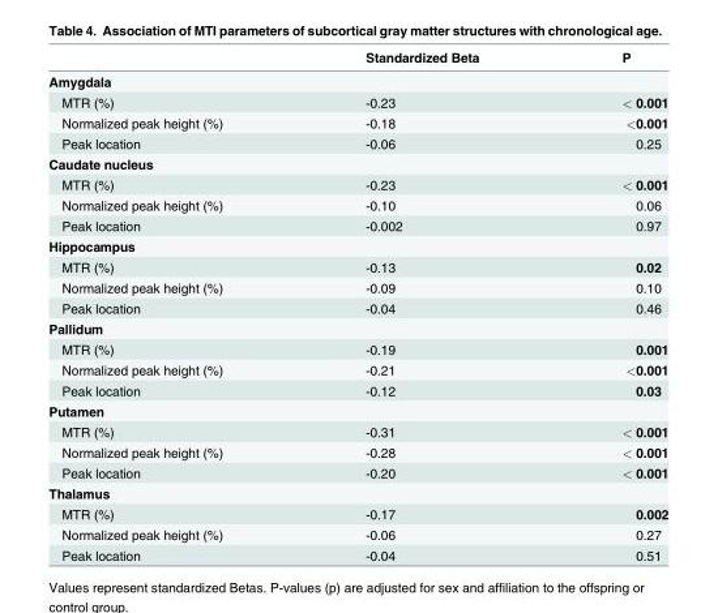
<table><thead><tr><td></td><td>Standardized Beta</td><td>P</td></tr></thead><tbody><tr><td colspan="3">Amygdala</td></tr><tr><td>MTR (%)</td><td>-0.23</td><td>&lt; 0.001</td></tr><tr><td>Normalized peak height (%)</td><td>-0.18</td><td>&lt;0.001</td></tr><tr><td>Peak location</td><td>-0.06</td><td>0.25</td></tr><tr><td colspan="3">Caudate nucleus</td></tr><tr><td>MTR (%)</td><td>-0.23</td><td>&lt; 0.001</td></tr><tr><td>Normalized peak height (%)</td><td>-0.10</td><td>0.06</td></tr><tr><td>Peak location</td><td>-0.002</td><td>0.97</td></tr><tr><td colspan="3">Hippocampus</td></tr><tr><td>MTR (%)</td><td>-0.13</td><td>0.02</td></tr><tr><td>Normalized peak height (%)</td><td>-0.09</td><td>0.10</td></tr><tr><td>Peak location</td><td>-0.04</td><td>0.46</td></tr><tr><td colspan="3">Pallidum</td></tr><tr><td>MTR (%)</td><td>-0.19</td><td>0.001</td></tr><tr><td>Normalized peak height (%)</td><td>-0.21</td><td>&lt;0.001</td></tr><tr><td>Peak location</td><td>-0.12</td><td>0.03</td></tr><tr><td colspan="3">Putamen</td></tr><tr><td>MTR (%)</td><td>-0.31</td><td>&lt; 0.001</td></tr><tr><td>Normalized peak height (%)</td><td>-0.28</td><td>&lt; 0.001</td></tr><tr><td>Peak location</td><td>-0.20</td><td>&lt; 0.001</td></tr><tr><td colspan="3">Thalamus</td></tr><tr><td>MTR (%)</td><td>-0.17</td><td>0.002</td></tr><tr><td>Normalized peak height (%)</td><td>-0.06</td><td>0.27</td></tr><tr><td>Peak location</td><td>-0.04</td><td>0.51</td></tr></tbody></table>